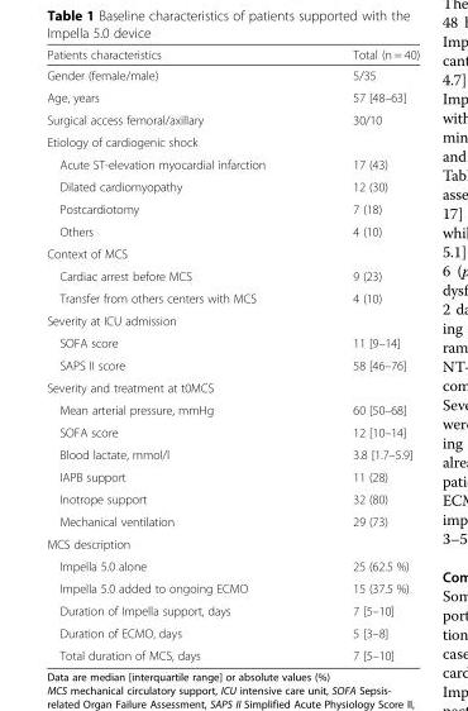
<table><thead><tr><td>Patients characteristics</td><td>Total (n = 40)</td></tr></thead><tbody><tr><td>Gender (female/male)</td><td>5/35</td></tr><tr><td>Age, years</td><td>57 [48–63]</td></tr><tr><td>Surgical access femoral/axillary</td><td>30/10</td></tr><tr><td colspan="2">Etiology of cardiogenic shock</td></tr><tr><td>Acute ST-elevation myocardial infarction</td><td>17 (43)</td></tr><tr><td>Dilated cardiomyopathy</td><td>12 (30)</td></tr><tr><td>Postcardiotomy</td><td>7 (18)</td></tr><tr><td>Others</td><td>4 (10)</td></tr><tr><td colspan="2">Context of MCS</td></tr><tr><td>Cardiac arrest before MCS</td><td>9 (23)</td></tr><tr><td>Transfer from others centers with MCS</td><td>4 (10)</td></tr><tr><td colspan="2">Severity at ICU admission</td></tr><tr><td>SOFA score</td><td>11 [9–14]</td></tr><tr><td>SAPS II score</td><td>58 [46–76]</td></tr><tr><td colspan="2">Severity and treatment at t0MCS</td></tr><tr><td>Mean arterial pressure, mmHg</td><td>60 [50–68]</td></tr><tr><td>SOFA score</td><td>12 [10–14]</td></tr><tr><td>Blood lactate, mmol/l</td><td>3.8 [1.7–5.9]</td></tr><tr><td>IAPB support</td><td>11 (28)</td></tr><tr><td>Inotrope support</td><td>32 (80)</td></tr><tr><td>Mechanical ventilation</td><td>29 (73)</td></tr><tr><td colspan="2">MCS description</td></tr><tr><td>Impella 5.0 alone</td><td>25 (62.5 %)</td></tr><tr><td>Impella 5.0 added to ongoing ECMO</td><td>15 (37.5 %)</td></tr><tr><td>Duration of Impella support, days</td><td>7 [5–10]</td></tr><tr><td>Duration of ECMO, days</td><td>5 [3–8]</td></tr><tr><td>Total duration of MCS, days</td><td>7 [5–10]</td></tr></tbody></table>